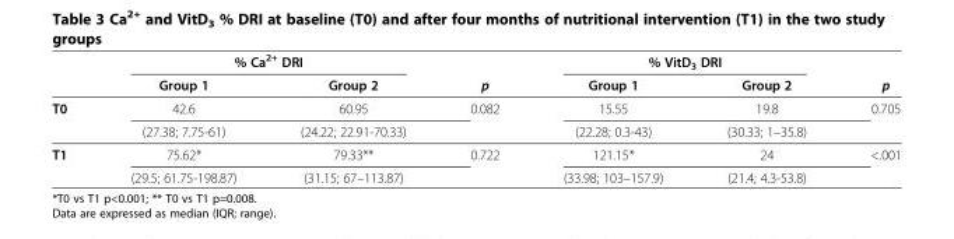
<table><thead><tr><td rowspan="2"></td><td colspan="2">% Ca<sup>2+</sup> DRI</td><td rowspan="2">p</td><td colspan="2">% VitD<sub>3</sub> DRI</td><td rowspan="2">p</td></tr><tr><td>Group 1</td><td>Group 2</td><td>Group 1</td><td>Group 2</td></tr></thead><tbody><tr><td rowspan="2">T0</td><td>42.6</td><td>60.95</td><td rowspan="2">0.082</td><td>15.55</td><td>19.8</td><td rowspan="2">0.705</td></tr><tr><td>(27.38; 7.75-61)</td><td>(24.22; 22.91-70.33)</td><td>(22.28; 0.3-43)</td><td>(30.33; 1–35.8)</td></tr><tr><td rowspan="2">T1</td><td>75.62*</td><td>79.33**</td><td rowspan="2">0.722</td><td>121.15*</td><td>24</td><td rowspan="2">&lt;.001</td></tr><tr><td>(29.5; 61.75-198.87)</td><td>(31.15; 67–113.87)</td><td>(33.98; 103–157.9)</td><td>(21.4; 4.3-53.8)</td></tr></tbody></table>